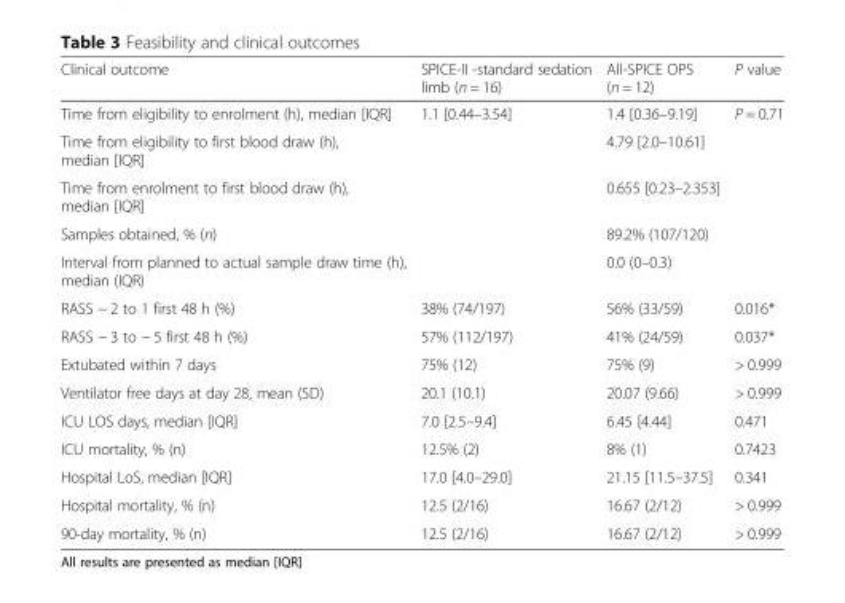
<table><thead><tr><td>Clinical outcome</td><td>SPICE-II -standard sedation limb (n = 16)</td><td>All-SPICE OPS (n = 12)</td><td>P value</td></tr></thead><tbody><tr><td>Time from eligibility to enrolment (h), median [IQR]</td><td>1.1 [0.44–3.54]</td><td>1.4 [0.36–9.19]</td><td>P = 0.71</td></tr><tr><td>Time from eligibility to first blood draw (h), median [IQR]</td><td></td><td>4.79 [2.0–10.61]</td><td></td></tr><tr><td>Time from enrolment to first blood draw (h), median [IQR]</td><td></td><td>0.655 [0.23–2.353]</td><td></td></tr><tr><td>Samples obtained, % (n)</td><td></td><td>89.2% (107/120)</td><td></td></tr><tr><td>Interval from planned to actual sample draw time (h), median (IQR)</td><td></td><td>0.0 (0–0.3)</td><td></td></tr><tr><td>RASS − 2 to 1 first 48 h (%)</td><td>38% (74/197)</td><td>56% (33/59)</td><td>0.016*</td></tr><tr><td>RASS − 3 to − 5 first 48 h (%)</td><td>57% (112/197)</td><td>41% (24/59)</td><td>0.037*</td></tr><tr><td>Extubated within 7 days</td><td>75% (12)</td><td>75% (9)</td><td>&gt; 0.999</td></tr><tr><td>Ventilator free days at day 28, mean (SD)</td><td>20.1 (10.1)</td><td>20.07 (9.66)</td><td>&gt; 0.999</td></tr><tr><td>ICU LOS days, median [IQR]</td><td>7.0 [2.5–9.4]</td><td>6.45 [4.44]</td><td>0.471</td></tr><tr><td>ICU mortality, % (n)</td><td>12.5% (2)</td><td>8% (1)</td><td>0.7423</td></tr><tr><td>Hospital LoS, median [IQR]</td><td>17.0 [4.0–29.0]</td><td>21.15 [11.5–37.5]</td><td>0.341</td></tr><tr><td>Hospital mortality, % (n)</td><td>12.5 (2/16)</td><td>16.67 (2/12)</td><td>&gt; 0.999</td></tr><tr><td>90-day mortality, % (n)</td><td>12.5 (2/16)</td><td>16.67 (2/12)</td><td>&gt; 0.999</td></tr></tbody></table>